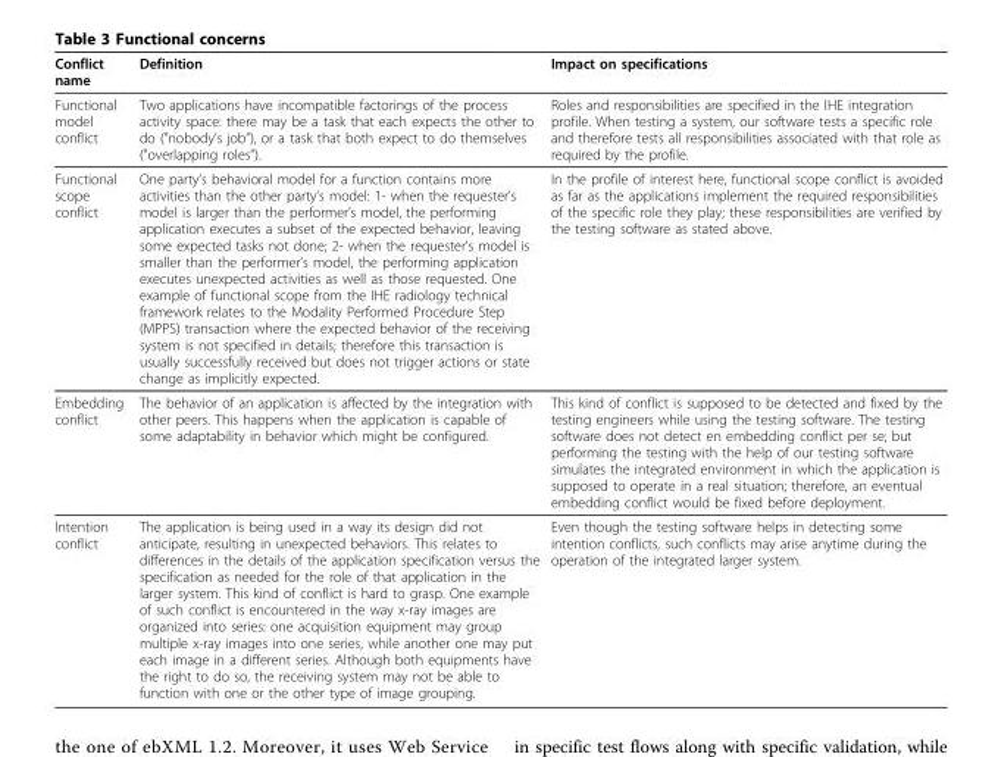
<table><thead><tr><td>Conflict name</td><td>Definition</td><td>Impact on specifications</td></tr></thead><tbody><tr><td>Functional model conflict</td><td>Two applications have incompatible factorings of the process activity space: there may be a task that each expects the other to do (&quot;nobody’s job”), or a task that both expect to do themselves (&quot;overlapping roles”).</td><td>Roles and responsibilities are specified in the IHE integration profile. When testing a system, our software tests a specific role and therefore tests all responsibilities associated with that role as required by the profile.</td></tr><tr><td>Functional scope conflict</td><td>One party’s behavioral model for a function contains more activities than the other party’s model: 1- when the requester’s model is larger than the performer’s model, the performing application executes a subset of the expected behavior, leaving some expected tasks not done; 2- when the requester’s model is smaller than the performer’s model, the performing application executes unexpected activities as well as those requested. One example of functional scope from the IHE radiology technical framework relates to the Modality Performed Procedure Step (MPPS) transaction where the expected behavior of the receiving system is not specified in details; therefore this transaction is usually successfully received but does not trigger actions or state change as implicitly expected.</td><td>In the profile of interest here, functional scope conflict is avoided as far as the applications implement the required responsibilities of the specific role they play; these responsibilities are verified by the testing software as stated above.</td></tr><tr><td>Embedding conflict</td><td>The behavior of an application is affected by the integration with other peers. This happens when the application is capable of some adaptability in behavior which might be configured.</td><td>This kind of conflict is supposed to be detected and fixed by the testing engineers while using the testing software. The testing software does not detect en embedding conflict per se; but performing the testing with the help of our testing software simulates the integrated environment in which the application is supposed to operate in a real situation; therefore, an eventual embedding conflict would be fixed before deployment.</td></tr><tr><td>Intention conflict</td><td>The application is being used in a way its design did not anticipate, resulting in unexpected behaviors. This relates to differences in the details of the application specification versus the specification as needed for the role of that application in the larger system. This kind of conflict is hard to grasp. One example of such conflict is encountered in the way x-ray images are organized into series: one acquisition equipment may group multiple x-ray images into one series, while another one may put each image in a different series. Although both equipments have the right to do so, the receiving system may not be able to function with one or the other type of image grouping.</td><td>Even though the testing software helps in detecting some intention conflicts, such conflicts may arise anytime during the operation of the integrated larger system.</td></tr></tbody></table>